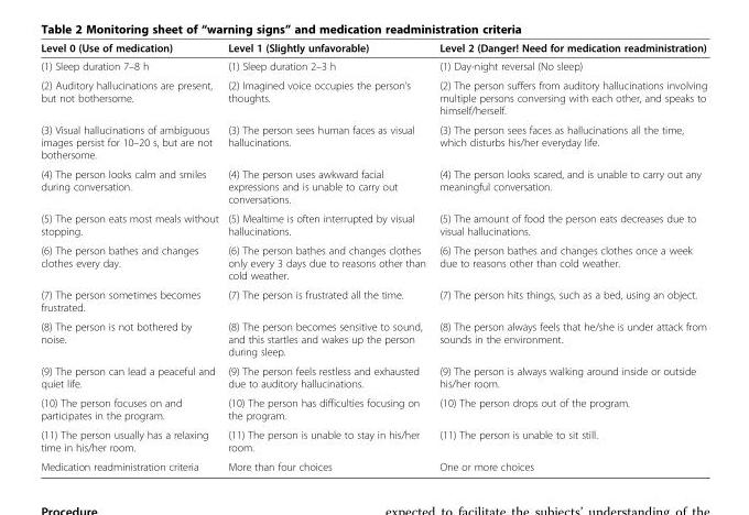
<table><thead><tr><td>Level 0 (Use of medication)</td><td>Level 1 (Slightly unfavorable)</td><td>Level 2 (Danger! Need for medication readministration)</td></tr></thead><tbody><tr><td>(1) Sleep duration 7–8 h</td><td>(1) Sleep duration 2–3 h</td><td>(1) Day-night reversal (No sleep)</td></tr><tr><td>(2) Auditory hallucinations are present, but not bothersome.</td><td>(2) Imagined voice occupies the person’s thoughts.</td><td>(2) The person suffers from auditory hallucinations involving multiple persons conversing with each other, and speaks to himself/herself.</td></tr><tr><td>(3) Visual hallucinations of ambiguous images persist for 10–20 s, but are not bothersome.</td><td>(3) The person sees human faces as visual hallucinations.</td><td>(3) The person sees faces as hallucinations all the time, which disturbs his/her everyday life.</td></tr><tr><td>(4) The person looks calm and smiles during conversation.</td><td>(4) The person uses awkward facial expressions and is unable to carry out conversations.</td><td>(4) The person looks scared, and is unable to carry out any meaningful conversation.</td></tr><tr><td>(5) The person eats most meals without stopping.</td><td>(5) Mealtime is often interrupted by visual hallucinations.</td><td>(5) The amount of food the person eats decreases due to visual hallucinations.</td></tr><tr><td>(6) The person bathes and changes clothes every day.</td><td>(6) The person bathes and changes clothes only every 3 days due to reasons other than cold weather.</td><td>(6) The person bathes and changes clothes once a week due to reasons other than cold weather.</td></tr><tr><td>(7) The person sometimes becomes frustrated.</td><td>(7) The person is frustrated all the time.</td><td>(7) The person hits things, such as a bed, using an object.</td></tr><tr><td>(8) The person is not bothered by noise.</td><td>(8) The person becomes sensitive to sound, and this startles and wakes up the person during sleep.</td><td>(8) The person always feels that he/she is under attack from sounds in the environment.</td></tr><tr><td>(9) The person can lead a peaceful and quiet life.</td><td>(9) The person feels restless and exhausted due to auditory hallucinations.</td><td>(9) The person is always walking around inside or outside his/her room.</td></tr><tr><td>(10) The person focuses on and participates in the program.</td><td>(10) The person has difficulties focusing on the program.</td><td>(10) The person drops out of the program.</td></tr><tr><td>(11) The person usually has a relaxing time in his/her room.</td><td>(11) The person is unable to stay in his/her room.</td><td>(11) The person is unable to sit still.</td></tr><tr><td>Medication readministration criteria</td><td>More than four choices</td><td>One or more choices</td></tr></tbody></table>